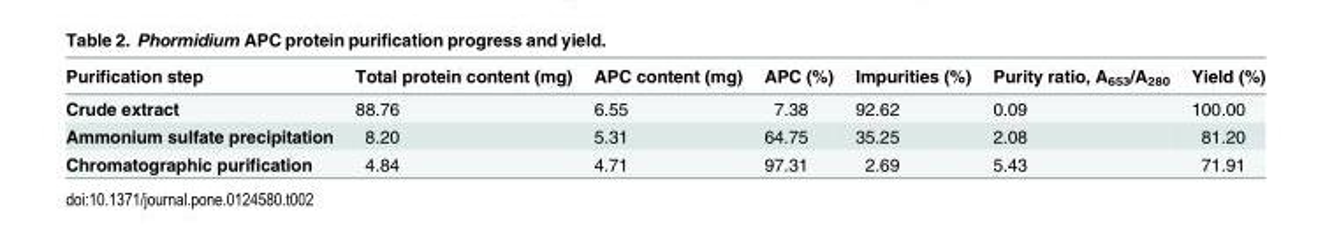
<table><thead><tr><td>Purification step</td><td>Total protein content (mg)</td><td>APC content (mg)</td><td>APC (%)</td><td>Impurities (%)</td><td>Purity ratio, A<sub>653</sub>/A<sub>280</sub></td><td>Yield (%)</td></tr></thead><tbody><tr><td>Crude extract</td><td>88.76</td><td>6.55</td><td>7.38</td><td>92.62</td><td>0.09</td><td>100.00</td></tr><tr><td>Ammonium sulfate precipitation</td><td>8.20</td><td>5.31</td><td>64.75</td><td>35.25</td><td>2.08</td><td>81.20</td></tr><tr><td>Chromatographic purification</td><td>4.84</td><td>4.71</td><td>97.31</td><td>2.69</td><td>5.43</td><td>71.91</td></tr></tbody></table>